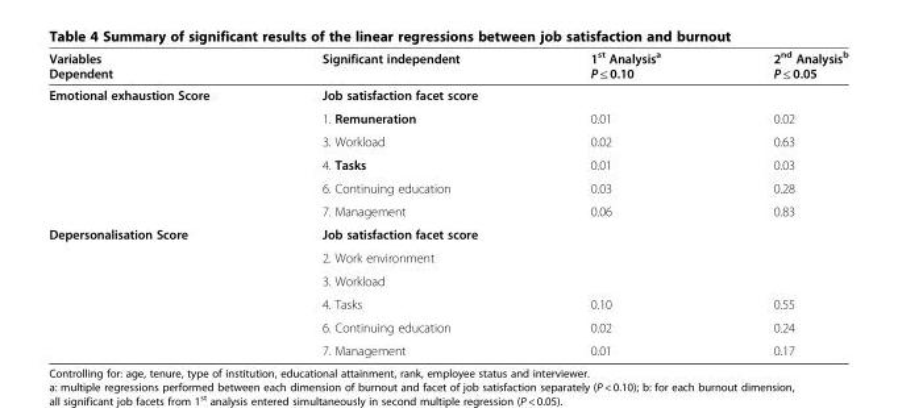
<table><thead><tr><td>Variables Dependent</td><td>Significant independent</td><td>1<sup>st</sup> Analysis<sup>a</sup> P ≤ 0.10</td><td>2<sup>nd</sup> Analysis<sup>b</sup> P ≤ 0.05</td></tr></thead><tbody><tr><td rowspan="6">Emotional exhaustion Score</td><td>Job satisfaction facet score</td><td></td><td></td></tr><tr><td>1. Remuneration</td><td>0.01</td><td>0.02</td></tr><tr><td>3. Workload</td><td>0.02</td><td>0.63</td></tr><tr><td>4. Tasks</td><td>0.01</td><td>0.03</td></tr><tr><td>6. Continuing education</td><td>0.03</td><td>0.28</td></tr><tr><td>7. Management</td><td>0.06</td><td>0.83</td></tr><tr><td rowspan="6">Depersonalisation Score</td><td>Job satisfaction facet score</td><td></td><td></td></tr><tr><td>2. Work environment</td><td></td><td></td></tr><tr><td>3. Workload</td><td></td><td></td></tr><tr><td>4. Tasks</td><td>0.10</td><td>0.55</td></tr><tr><td>6. Continuing education</td><td>0.02</td><td>0.24</td></tr><tr><td>7. Management</td><td>0.01</td><td>0.17</td></tr></tbody></table>